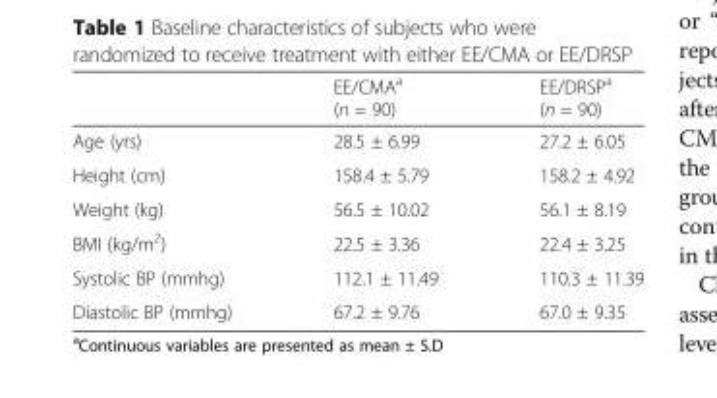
<table><thead><tr><td></td><td>EE/CMA<sup>a</sup> (n = 90)</td><td>EE/DRSP<sup>a</sup> (n = 90)</td></tr></thead><tbody><tr><td>Age (yrs)</td><td>28.5 ± 6.99</td><td>27.2 ± 6.05</td></tr><tr><td>Height (cm)</td><td>158.4 ± 5.79</td><td>158.2 ± 4.92</td></tr><tr><td>Weight (kg)</td><td>56.5 ± 10.02</td><td>56.1 ± 8.19</td></tr><tr><td>BMI (kg/m<sup>2</sup>)</td><td>22.5 ± 3.36</td><td>22.4 ± 3.25</td></tr><tr><td>Systolic BP (mmhg)</td><td>112.1 ± 11.49</td><td>110.3 ± 11.39</td></tr><tr><td>Diastolic BP (mmhg)</td><td>67.2 ± 9.76</td><td>67.0 ± 9.35</td></tr></tbody></table>